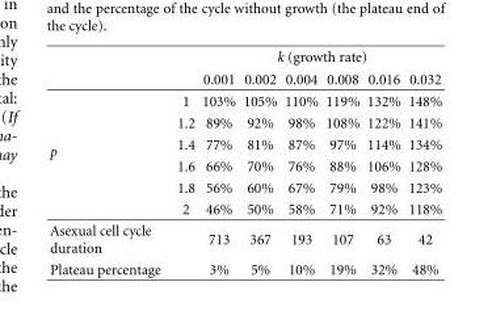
<table><thead><tr><td rowspan="2"></td><td rowspan="2"></td><td colspan="6">k (growth rate)</td></tr><tr><td>0.001</td><td>0.002</td><td>0.004</td><td>0.008</td><td>0.016</td><td>0.032</td></tr></thead><tbody><tr><td rowspan="6">p</td><td>1</td><td>103%</td><td>105%</td><td>110%</td><td>119%</td><td>132%</td><td>148%</td></tr><tr><td>1.2</td><td>89%</td><td>92%</td><td>98%</td><td>108%</td><td>122%</td><td>141%</td></tr><tr><td>1.4</td><td>77%</td><td>81%</td><td>87%</td><td>97%</td><td>114%</td><td>134%</td></tr><tr><td>1.6</td><td>66%</td><td>70%</td><td>76%</td><td>88%</td><td>106%</td><td>128%</td></tr><tr><td>1.8</td><td>56%</td><td>60%</td><td>67%</td><td>79%</td><td>98%</td><td>123%</td></tr><tr><td>2</td><td>46%</td><td>50%</td><td>58%</td><td>71%</td><td>92%</td><td>118%</td></tr><tr><td>Asexual cell cycle duration</td><td></td><td>713</td><td>367</td><td>193</td><td>107</td><td>63</td><td>42</td></tr><tr><td>Plateau percentage</td><td></td><td>3%</td><td>5%</td><td>10%</td><td>19%</td><td>32%</td><td>48%</td></tr></tbody></table>